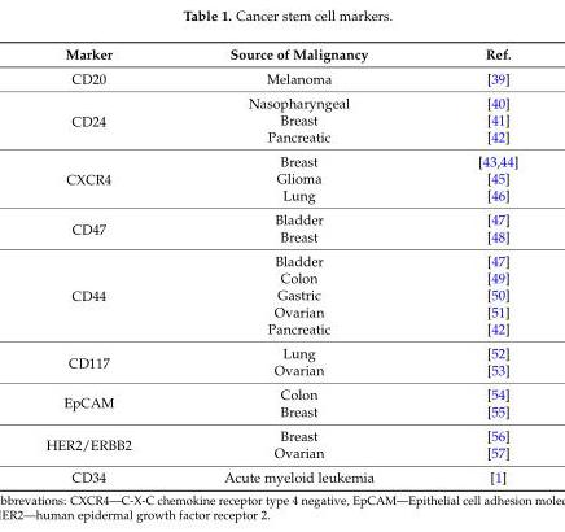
<table><thead><tr><td>Marker</td><td>Source of Malignancy</td><td>Ref.</td></tr></thead><tbody><tr><td>CD20</td><td>Melanoma</td><td>[39]</td></tr><tr><td rowspan="3">CD24</td><td>Nasopharyngeal</td><td>[40]</td></tr><tr><td>Breast</td><td>[41]</td></tr><tr><td>Pancreatic</td><td>[42]</td></tr><tr><td rowspan="3">CXCR4</td><td>Breast</td><td>[43,44]</td></tr><tr><td>Glioma</td><td>[45]</td></tr><tr><td>Lung</td><td>[46]</td></tr><tr><td rowspan="2">CD47</td><td>Bladder</td><td>[47]</td></tr><tr><td>Breast</td><td>[48]</td></tr><tr><td rowspan="5">CD44</td><td>Bladder</td><td>[47]</td></tr><tr><td>Colon</td><td>[49]</td></tr><tr><td>Gastric</td><td>[50]</td></tr><tr><td>Ovarian</td><td>[51]</td></tr><tr><td>Pancreatic</td><td>[42]</td></tr><tr><td rowspan="2">CD117</td><td>Lung</td><td>[52]</td></tr><tr><td>Ovarian</td><td>[53]</td></tr><tr><td rowspan="2">EpCAM</td><td>Colon</td><td>[54]</td></tr><tr><td>Breast</td><td>[55]</td></tr><tr><td rowspan="2">HER2/ERBB2</td><td>Breast</td><td>[56]</td></tr><tr><td>Ovarian</td><td>[57]</td></tr><tr><td>CD34</td><td>Acute myeloid leukemia</td><td>[1]</td></tr></tbody></table>